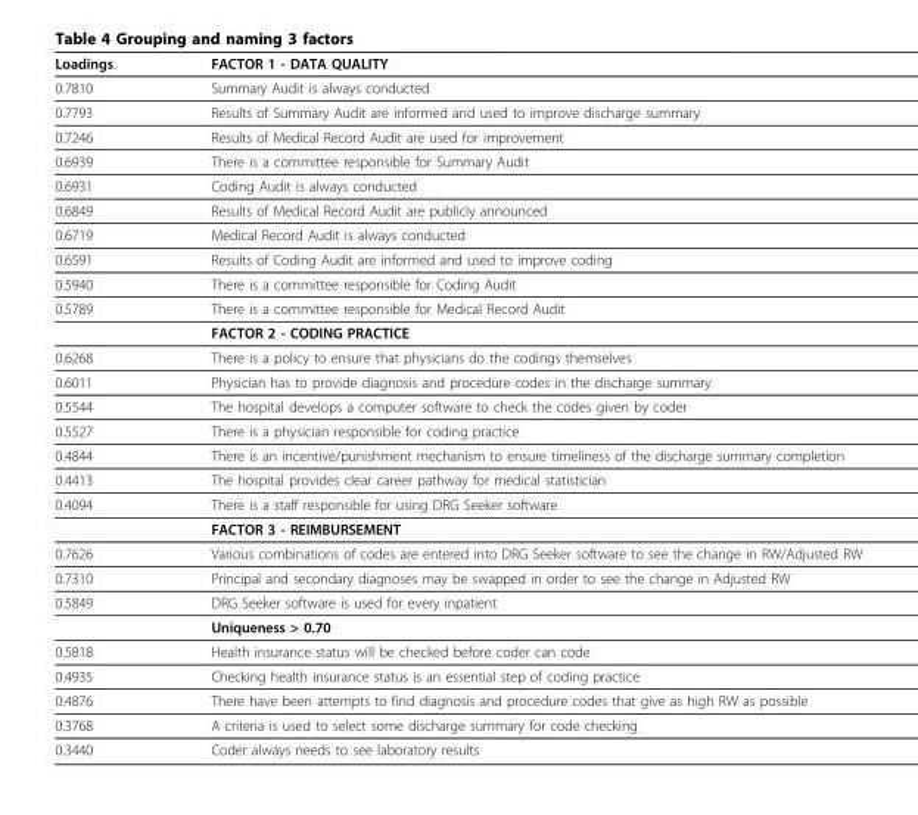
<table><thead><tr><td>Loadings</td><td>FACTOR 1 - DATA QUALITY</td></tr></thead><tbody><tr><td>0.7810</td><td>Summary Audit is always conducted</td></tr><tr><td>0.7793</td><td>Results of Summary Audit are informed and used to improve discharge summary</td></tr><tr><td>0.7246</td><td>Results of Medical Record Audit are used for improvement</td></tr><tr><td>0.6939</td><td>There is a committee responsible for Summary Audit</td></tr><tr><td>0.6931</td><td>Coding Audit is always conducted</td></tr><tr><td>0.6849</td><td>Results of Medical Record Audit are publicly announced</td></tr><tr><td>0.6719</td><td>Medical Record Audit is always conducted</td></tr><tr><td>0.6591</td><td>Results of Coding Audit are informed and used to improve coding</td></tr><tr><td>0.5940</td><td>There is a committee responsible for Coding Audit</td></tr><tr><td rowspan="2">0.5789</td><td>There is a committee responsible for Medical Record Audit</td></tr><tr><td>FACTOR 2 - CODING PRACTICE</td></tr><tr><td>0.6268</td><td>There is a policy to ensure that physicians do the codings themselves</td></tr><tr><td>0.6011</td><td>Physician has to provide diagnosis and procedure codes in the discharge summary</td></tr><tr><td>0.5544</td><td>The hospital develops a computer software to check the codes given by coder</td></tr><tr><td>0.5527</td><td>There is a physician responsible for coding practice</td></tr><tr><td>0.4844</td><td>There is an incentive/punishment mechanism to ensure timeliness of the discharge summary completion</td></tr><tr><td>0.4413</td><td>The hospital provides clear career pathway for medical statistician</td></tr><tr><td rowspan="2">0.4094</td><td>There is a staff responsible for using DRG Seeker software</td></tr><tr><td>FACTOR 3 - REIMBURSEMENT</td></tr><tr><td>0.7626</td><td>Various combinations of codes are entered into DRG Seeker software to see the change in RW/Adjusted RW</td></tr><tr><td>0.7310</td><td>Principal and secondary diagnoses may be swapped in order to see the change in Adjusted RW</td></tr><tr><td rowspan="2">0.5849</td><td>DRG Seeker software is used for every inpatient</td></tr><tr><td>Uniqueness &gt; 0.70</td></tr><tr><td>0.5818</td><td>Health insurance status will be checked before coder can code</td></tr><tr><td>0.4935</td><td>Checking health insurance status is an essential step of coding practice</td></tr><tr><td>0.4876</td><td>There have been attempts to find diagnosis and procedure codes that give as high RW as possible</td></tr><tr><td>0.3768</td><td>A criteria is used to select some discharge summary for code checking</td></tr><tr><td>0.3440</td><td>Coder always needs to see laboratory results</td></tr></tbody></table>